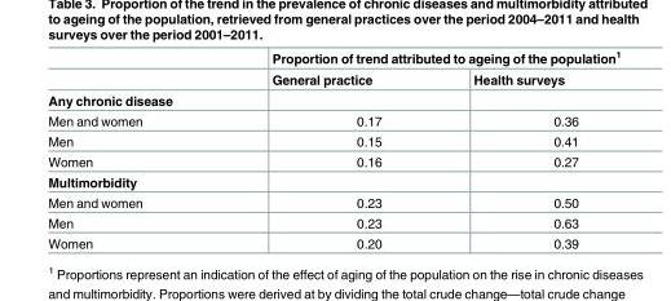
<table><thead><tr><td rowspan="2"></td><td colspan="2">Proportion of trend attributed to ageing of the population<sup>1</sup></td></tr><tr><td>General practice</td><td>Health surveys</td></tr></thead><tbody><tr><td colspan="3">Any chronic disease</td></tr><tr><td>Men and women</td><td>0.17</td><td>0.36</td></tr><tr><td>Men</td><td>0.15</td><td>0.41</td></tr><tr><td>Women</td><td>0.16</td><td>0.27</td></tr><tr><td colspan="3">Multimorbidity</td></tr><tr><td>Men and women</td><td>0.23</td><td>0.50</td></tr><tr><td>Men</td><td>0.23</td><td>0.63</td></tr><tr><td>Women</td><td>0.20</td><td>0.39</td></tr></tbody></table>